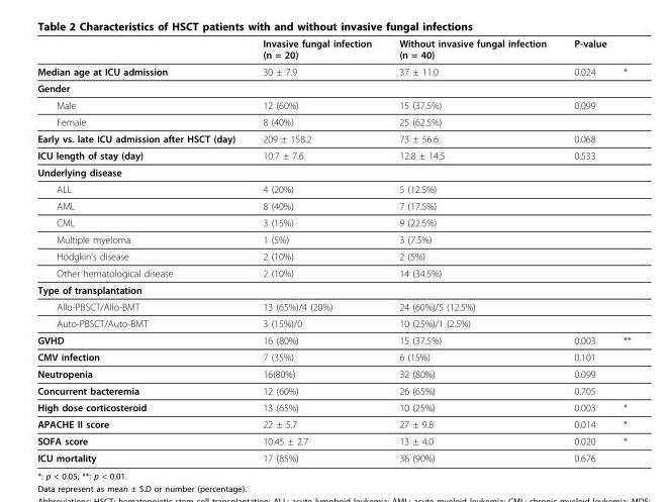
<table><thead><tr><td rowspan="2">Median age at ICU admission</td><td rowspan="2">Invasive fungal infection (n = 20) 30 ± 7.9</td><td rowspan="2">Without invasive fungal infection (n = 40) 37 ± 11.0</td><td colspan="2">P-value</td></tr><tr><td>0.024</td><td>*</td></tr></thead><tbody><tr><td colspan="5">Gender</td></tr><tr><td>Male</td><td>12 (60%)</td><td>15 (37.5%)</td><td>0.099</td><td></td></tr><tr><td>Female</td><td>8 (40%)</td><td>25 (62.5%)</td><td></td><td></td></tr><tr><td>Early vs. late ICU admission after HSCT (day)</td><td>209 ± 158.2</td><td>73 ± 56.6</td><td>0.068</td><td></td></tr><tr><td>ICU length of stay (day)</td><td>10.7 ± 7.6</td><td>12.8 ± 14.5</td><td>0.533</td><td></td></tr><tr><td colspan="5">Underlying disease</td></tr><tr><td>ALL</td><td>4 (20%)</td><td>5 (12.5%)</td><td></td><td></td></tr><tr><td>AML</td><td>8 (40%)</td><td>7 (17.5%)</td><td></td><td></td></tr><tr><td>CML</td><td>3 (15%)</td><td>9 (22.5%)</td><td></td><td></td></tr><tr><td>Multiple myeloma</td><td>1 (5%)</td><td>3 (7.5%)</td><td></td><td></td></tr><tr><td>Hodgkin’s disease</td><td>2 (10%)</td><td>2 (5%)</td><td></td><td></td></tr><tr><td>Other hematological disease</td><td>2 (10%)</td><td>14 (34.5%)</td><td></td><td></td></tr><tr><td colspan="5">Type of transplantation</td></tr><tr><td>Allo-PBSCT/Allo-BMT</td><td>13 (65%)/4 (20%)</td><td>24 (60%)/5 (12.5%)</td><td></td><td></td></tr><tr><td>Auto-PBSCT/Auto-BMT</td><td>3 (15%)/0</td><td>10 (25%)/1 (2.5%)</td><td></td><td></td></tr><tr><td>GVHD</td><td>16 (80%)</td><td>15 (37.5%)</td><td>0.003</td><td>**</td></tr><tr><td>CMV infection</td><td>7 (35%)</td><td>6 (15%)</td><td>0.101</td><td></td></tr><tr><td>Neutropenia</td><td>16(80%)</td><td>32 (80%)</td><td>0.099</td><td></td></tr><tr><td>Concurrent bacteremia</td><td>12 (60%)</td><td>26 (65%)</td><td>0.705</td><td></td></tr><tr><td>High dose corticosteroid</td><td>13 (65%)</td><td>10 (25%)</td><td>0.003</td><td>*</td></tr><tr><td>APACHE II score</td><td>22 ± 5.7</td><td>27 ± 9.8</td><td>0.014</td><td>*</td></tr><tr><td>SOFA score</td><td>10.45 ± 2.7</td><td>13 ± 4.0</td><td>0.020</td><td>*</td></tr><tr><td>ICU mortality</td><td>17 (85%)</td><td>36 (90%)</td><td>0.676</td><td></td></tr></tbody></table>